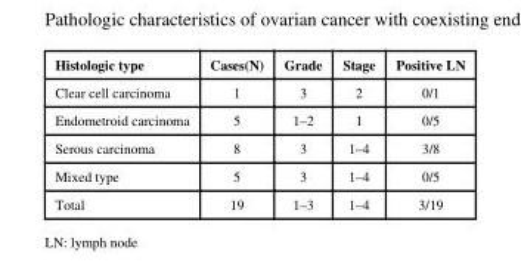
<table><thead><tr><td>Histologic type</td><td>Cases(N)</td><td>Grade</td><td>Stage</td><td>Positive LN</td></tr></thead><tbody><tr><td>Clear cell carcinoma</td><td>1</td><td>3</td><td>2</td><td>0/1</td></tr><tr><td>Endometroid carcinoma</td><td>5</td><td>1–2</td><td>1</td><td>0/5</td></tr><tr><td>Serous carcinoma</td><td>8</td><td>3</td><td>1–4</td><td>3/8</td></tr><tr><td>Mixed type</td><td>5</td><td>3</td><td>1–4</td><td>0/5</td></tr><tr><td>Total</td><td>19</td><td>1–3</td><td>1–4</td><td>3/19</td></tr></tbody></table>